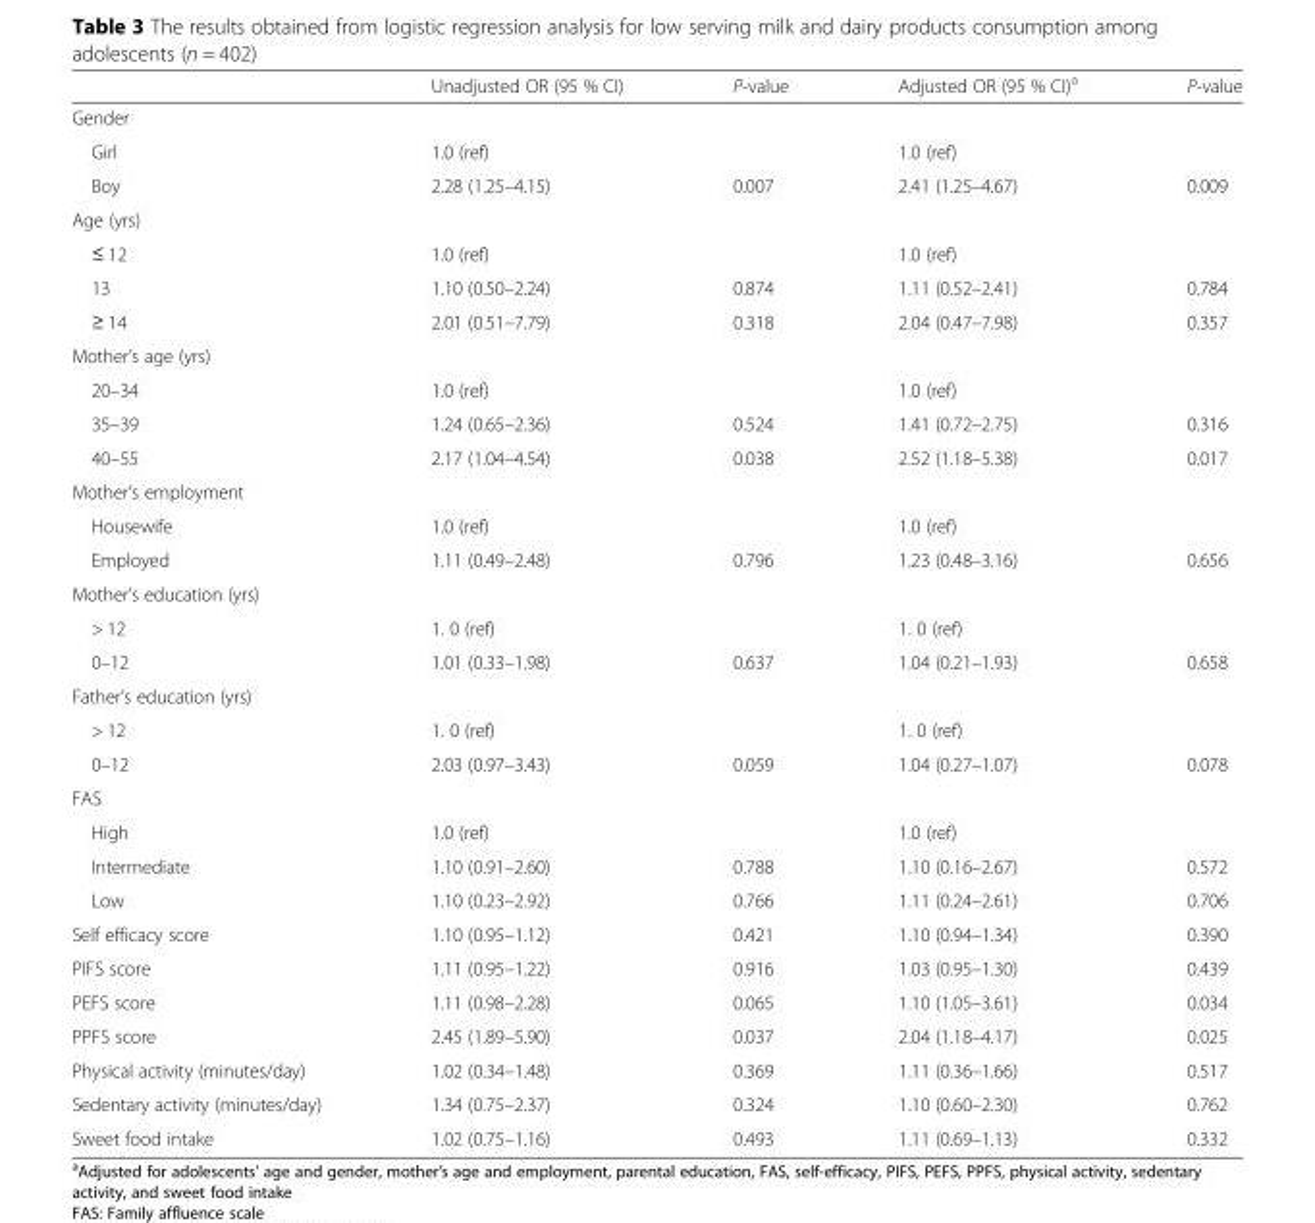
<table><thead><tr><td></td><td>Unadjusted OR (95 % CI)</td><td>P-value</td><td>Adjusted OR (95 % CI)<sup>a</sup></td><td>P-value</td></tr></thead><tbody><tr><td colspan="5">Gender</td></tr><tr><td>Girl</td><td>1.0 (ref)</td><td></td><td>1.0 (ref)</td><td></td></tr><tr><td>Boy</td><td>2.28 (1.25–4.15)</td><td>0.007</td><td>2.41 (1.25–4.67)</td><td>0.009</td></tr><tr><td colspan="5">Age (yrs)</td></tr><tr><td>≤ 12</td><td>1.0 (ref)</td><td></td><td>1.0 (ref)</td><td></td></tr><tr><td>13</td><td>1.10 (0.50–2.24)</td><td>0.874</td><td>1.11 (0.52–2.41)</td><td>0.784</td></tr><tr><td>≥ 14</td><td>2.01 (0.51–7.79)</td><td>0.318</td><td>2.04 (0.47–7.98)</td><td>0.357</td></tr><tr><td colspan="5">Mother’s age (yrs)</td></tr><tr><td>20–34</td><td>1.0 (ref)</td><td></td><td>1.0 (ref)</td><td></td></tr><tr><td>35–39</td><td>1.24 (0.65–2.36)</td><td>0.524</td><td>1.41 (0.72–2.75)</td><td>0.316</td></tr><tr><td>40–55</td><td>2.17 (1.04–4.54)</td><td>0.038</td><td>2.52 (1.18–5.38)</td><td>0.017</td></tr><tr><td colspan="5">Mother’s employment</td></tr><tr><td>Housewife</td><td>1.0 (ref)</td><td></td><td>1.0 (ref)</td><td></td></tr><tr><td>Employed</td><td>1.11 (0.49–2.48)</td><td>0.796</td><td>1.23 (0.48–3.16)</td><td>0.656</td></tr><tr><td colspan="5">Mother’s education (yrs)</td></tr><tr><td>&gt; 12</td><td>1. 0 (ref)</td><td></td><td>1. 0 (ref)</td><td></td></tr><tr><td>0–12</td><td>1.01 (0.33–1.98)</td><td>0.637</td><td>1.04 (0.21–1.93)</td><td>0.658</td></tr><tr><td colspan="5">Father’s education (yrs)</td></tr><tr><td>&gt; 12</td><td>1. 0 (ref)</td><td></td><td>1. 0 (ref)</td><td></td></tr><tr><td>0–12</td><td>2.03 (0.97–3.43)</td><td>0.059</td><td>1.04 (0.27–1.07)</td><td>0.078</td></tr><tr><td colspan="5">FAS</td></tr><tr><td>High</td><td>1.0 (ref)</td><td></td><td>1.0 (ref)</td><td></td></tr><tr><td>Intermediate</td><td>1.10 (0.91–2.60)</td><td>0.788</td><td>1.10 (0.16–2.67)</td><td>0.572</td></tr><tr><td>Low</td><td>1.10 (0.23–2.92)</td><td>0.766</td><td>1.11 (0.24–2.61)</td><td>0.706</td></tr><tr><td>Self efficacy score</td><td>1.10 (0.95–1.12)</td><td>0.421</td><td>1.10 (0.94–1.34)</td><td>0.390</td></tr><tr><td>PIFS score</td><td>1.11 (0.95–1.22)</td><td>0.916</td><td>1.03 (0.95–1.30)</td><td>0.439</td></tr><tr><td>PEFS score</td><td>1.11 (0.98–2.28)</td><td>0.065</td><td>1.10 (1.05–3.61)</td><td>0.034</td></tr><tr><td>PPFS score</td><td>2.45 (1.89–5.90)</td><td>0.037</td><td>2.04 (1.18–4.17)</td><td>0.025</td></tr><tr><td>Physical activity (minutes/day)</td><td>1.02 (0.34–1.48)</td><td>0.369</td><td>1.11 (0.36–1.66)</td><td>0.517</td></tr><tr><td>Sedentary activity (minutes/day)</td><td>1.34 (0.75–2.37)</td><td>0.324</td><td>1.10 (0.60–2.30)</td><td>0.762</td></tr><tr><td>Sweet food intake</td><td>1.02 (0.75–1.16)</td><td>0.493</td><td>1.11 (0.69–1.13)</td><td>0.332</td></tr></tbody></table>